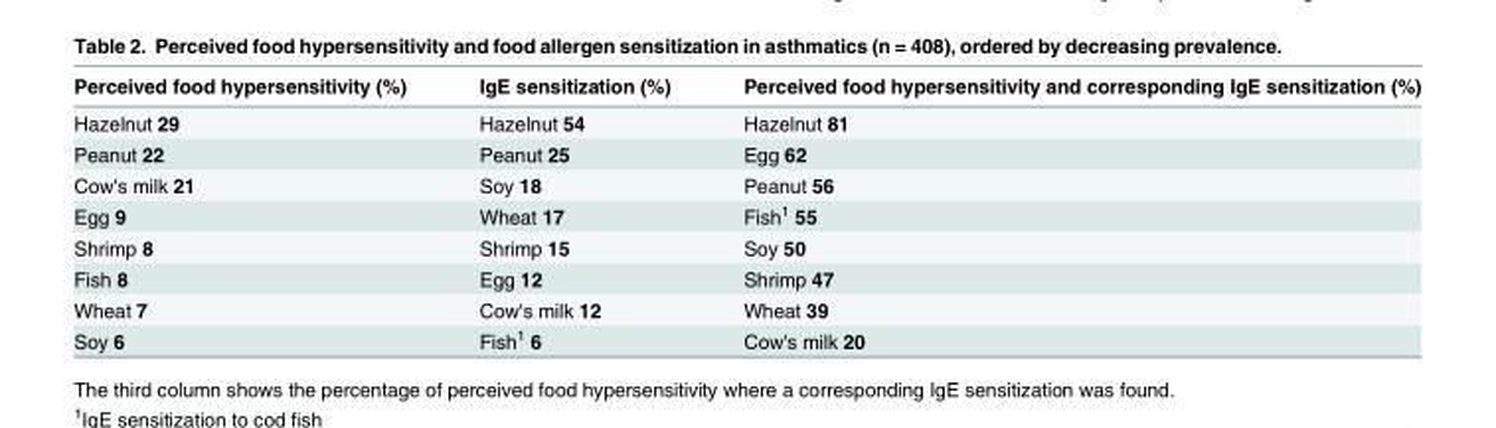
<table><thead><tr><td>Perceived food hypersensitivity (%)</td><td>IgE sensitization (%)</td><td>Perceived food hypersensitivity and corresponding IgE sensitization (%)</td></tr></thead><tbody><tr><td>Hazelnut 29</td><td>Hazelnut 54</td><td>Hazelnut 81</td></tr><tr><td>Peanut 22</td><td>Peanut 25</td><td>Egg 62</td></tr><tr><td>Cow&#x27;s milk 21</td><td>Soy 18</td><td>Peanut 56</td></tr><tr><td>Egg 9</td><td>Wheat 17</td><td>Fish<sup>1</sup> 55</td></tr><tr><td>Shrimp 8</td><td>Shrimp 15</td><td>Soy 50</td></tr><tr><td>Fish 8</td><td>Egg 12</td><td>Shrimp 47</td></tr><tr><td>Wheat 7</td><td>Cow&#x27;s milk 12</td><td>Wheat 39</td></tr><tr><td>Soy 6</td><td>Fish<sup>1</sup> 6</td><td>Cow&#x27;s milk 20</td></tr></tbody></table>